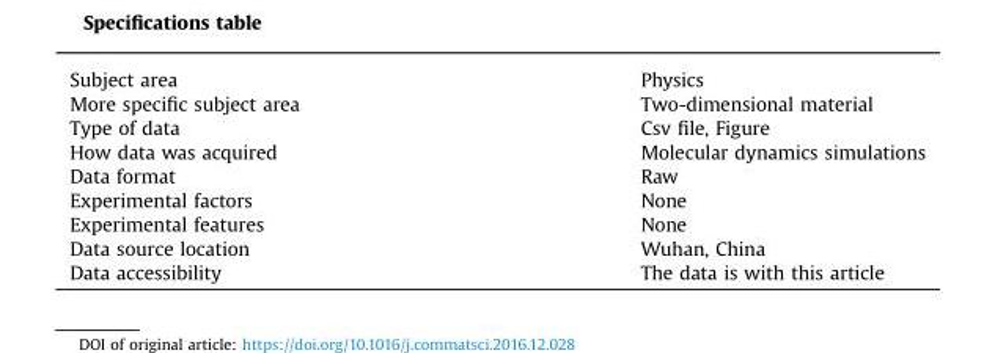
<table><tbody><tr><td>Subject area</td><td>Physics</td></tr><tr><td>More specific subject area</td><td>Two-dimensional material</td></tr><tr><td>Type of data</td><td>Csv file, Figure</td></tr><tr><td>How data was acquired</td><td>Molecular dynamics simulations</td></tr><tr><td>Data format</td><td>Raw</td></tr><tr><td>Experimental factors</td><td>None</td></tr><tr><td>Experimental features</td><td>None</td></tr><tr><td>Data source location</td><td>Wuhan, China</td></tr><tr><td>Data accessibility</td><td>The data is with this article</td></tr></tbody></table>